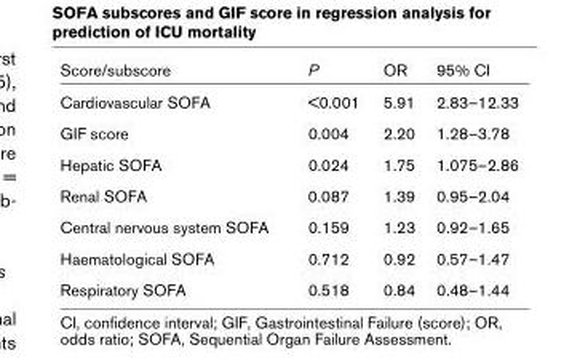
<table><thead><tr><td>Score/subscore</td><td>P</td><td>OR</td><td>95% CI</td></tr></thead><tbody><tr><td>Cardiovascular SOFA</td><td>&lt;0.001</td><td>5.91</td><td>2.83–12.33</td></tr><tr><td>GIF score</td><td>0.004</td><td>2.20</td><td>1.28–3.78</td></tr><tr><td>Hepatic SOFA</td><td>0.024</td><td>1.75</td><td>1.075–2.86</td></tr><tr><td>Renal SOFA</td><td>0.087</td><td>1.39</td><td>0.95–2.04</td></tr><tr><td>Central nervous system SOFA</td><td>0.159</td><td>1.23</td><td>0.92–1.65</td></tr><tr><td>Haematological SOFA</td><td>0.712</td><td>0.92</td><td>0.57–1.47</td></tr><tr><td>Respiratory SOFA</td><td>0.518</td><td>0.84</td><td>0.48–1.44</td></tr></tbody></table>